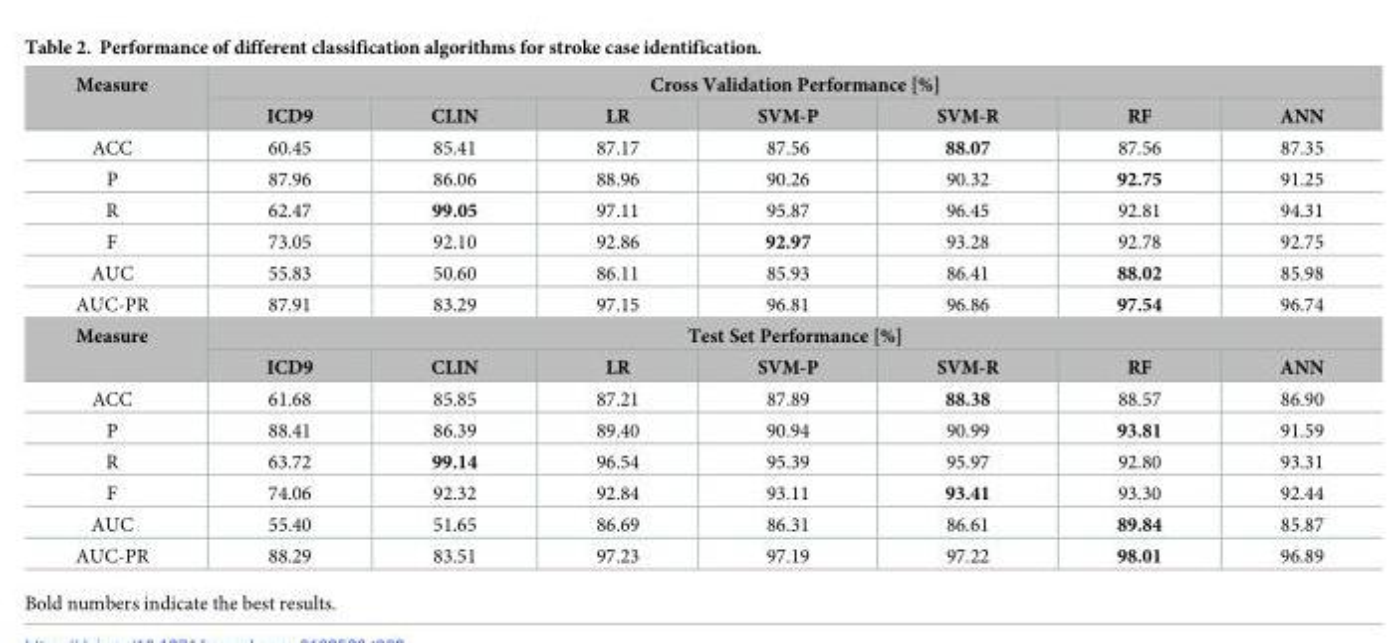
<table><tbody><tr><td rowspan="2">Measure</td><td colspan="7">Cross Validation Performance [%]</td></tr><tr><td>ICD9</td><td>CLIN</td><td>LR</td><td>SVM-P</td><td>SVM-R</td><td>RF</td><td>ANN</td></tr><tr><td>ACC</td><td>60.45</td><td>85.41</td><td>87.17</td><td>87.56</td><td>88.07</td><td>87.56</td><td>87.35</td></tr><tr><td>P</td><td>87.96</td><td>86.06</td><td>88.96</td><td>90.26</td><td>90.32</td><td>92.75</td><td>91.25</td></tr><tr><td>R</td><td>62.47</td><td>99.05</td><td>97.11</td><td>95.87</td><td>96.45</td><td>92.81</td><td>94.31</td></tr><tr><td>F</td><td>73.05</td><td>92.10</td><td>92.86</td><td>92.97</td><td>93.28</td><td>92.78</td><td>92.75</td></tr><tr><td>AUC</td><td>55.83</td><td>50.60</td><td>86.11</td><td>85.93</td><td>86.41</td><td>88.02</td><td>85.98</td></tr><tr><td>AUC-PR</td><td>87.91</td><td>83.29</td><td>97.15</td><td>96.81</td><td>96.86</td><td>97.54</td><td>96.74</td></tr><tr><td rowspan="2">Measure</td><td colspan="7">Test Set Performance [%]</td></tr><tr><td>ICD9</td><td>CLIN</td><td>LR</td><td>SVM-P</td><td>SVM-R</td><td>RF</td><td>ANN</td></tr><tr><td>ACC</td><td>61.68</td><td>85.85</td><td>87.21</td><td>87.89</td><td>88.38</td><td>88.57</td><td>86.90</td></tr><tr><td>P</td><td>88.41</td><td>86.39</td><td>89.40</td><td>90.94</td><td>90.99</td><td>93.81</td><td>91.59</td></tr><tr><td>R</td><td>63.72</td><td>99.14</td><td>96.54</td><td>95.39</td><td>95.97</td><td>92.80</td><td>93.31</td></tr><tr><td>F</td><td>74.06</td><td>92.32</td><td>92.84</td><td>93.11</td><td>93.41</td><td>93.30</td><td>92.44</td></tr><tr><td>AUC</td><td>55.40</td><td>51.65</td><td>86.69</td><td>86.31</td><td>86.61</td><td>89.84</td><td>85.87</td></tr><tr><td>AUC-PR</td><td>88.29</td><td>83.51</td><td>97.23</td><td>97.19</td><td>97.22</td><td>98.01</td><td>96.89</td></tr></tbody></table>